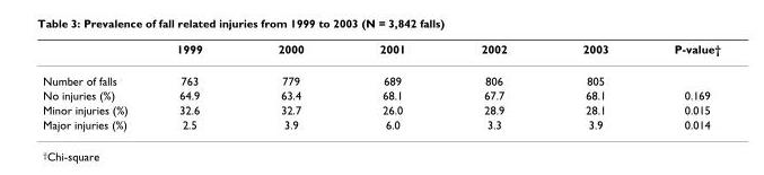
<table><thead><tr><td></td><td>1999</td><td>2000</td><td>2001</td><td>2002</td><td>2003</td><td>P-value†</td></tr></thead><tbody><tr><td>Number of falls</td><td>763</td><td>779</td><td>689</td><td>806</td><td>805</td><td></td></tr><tr><td>No injuries (%)</td><td>64.9</td><td>63.4</td><td>68.1</td><td>67.7</td><td>68.1</td><td>0.169</td></tr><tr><td>Minor injuries (%)</td><td>32.6</td><td>32.7</td><td>26.0</td><td>28.9</td><td>28.1</td><td>0.015</td></tr><tr><td>Major injuries (%)</td><td>2.5</td><td>3.9</td><td>6.0</td><td>3.3</td><td>3.9</td><td>0.014</td></tr></tbody></table>